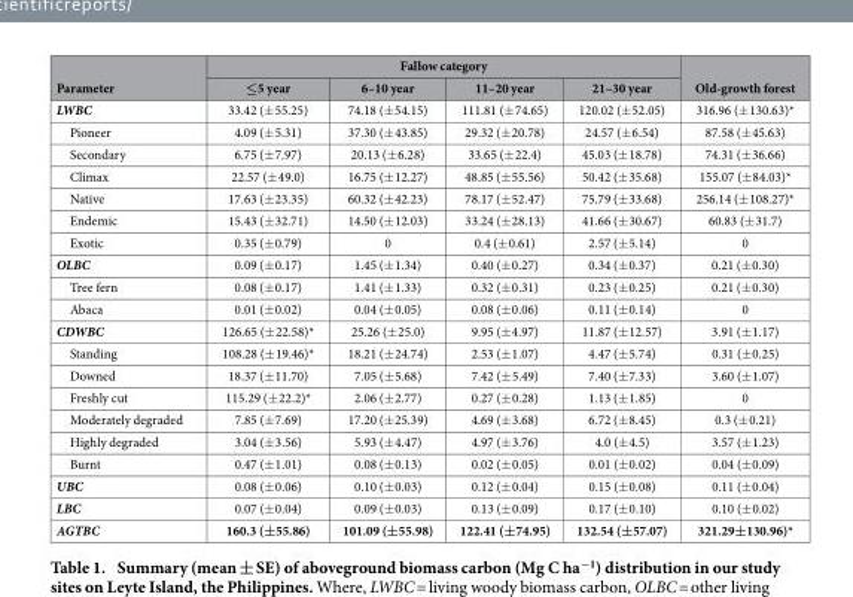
<table><thead><tr><td rowspan="2">Parameter</td><td colspan="4">Fallow category</td><td rowspan="2">Old-growth forest</td></tr><tr><td>≤5 year</td><td>6–10 year</td><td>11–20 year</td><td>21–30 year</td></tr></thead><tbody><tr><td>LWBC</td><td>33.42 (± 55.25)</td><td>74.18 (± 54.15)</td><td>111.81 (± 74.65)</td><td>120.02 (± 52.05)</td><td>316.96 (± 130.63)*</td></tr><tr><td>Pioneer</td><td>4.09 (± 5.31)</td><td>37.30 (± 43.85)</td><td>29.32 (± 20.78)</td><td>24.57 (± 6.54)</td><td>87.58 (± 45.63)</td></tr><tr><td>Secondary</td><td>6.75 (± 7.97)</td><td>20.13 (± 6.28)</td><td>33.65 (± 22.4)</td><td>45.03 (± 18.78)</td><td>74.31 (± 36.66)</td></tr><tr><td>Climax</td><td>22.57 (± 49.0)</td><td>16.75 (± 12.27)</td><td>48.85 (± 55.56)</td><td>50.42 (± 35.68)</td><td>155.07 (± 84.03)*</td></tr><tr><td>Native</td><td>17.63 (± 23.35)</td><td>60.32 (± 42.23)</td><td>78.17 (± 52.47)</td><td>75.79 (± 33.68)</td><td>256.14 (± 108.27)*</td></tr><tr><td>Endemic</td><td>15.43 (± 32.71)</td><td>14.50 (± 12.03)</td><td>33.24 (± 28.13)</td><td>41.66 (± 30.67)</td><td>60.83 (± 31.7)</td></tr><tr><td>Exotic</td><td>0.35 (± 0.79)</td><td>0</td><td>0.4 (± 0.61)</td><td>2.57 (± 5.14)</td><td>0</td></tr><tr><td>OLBC</td><td>0.09 (± 0.17)</td><td>1.45 (± 1.34)</td><td>0.40 (± 0.27)</td><td>0.34 (± 0.37)</td><td>0.21 (± 0.30)</td></tr><tr><td>Tree fern</td><td>0.08 (± 0.17)</td><td>1.41 (± 1.33)</td><td>0.32 (± 0.31)</td><td>0.23 (± 0.25)</td><td>0.21 (± 0.30)</td></tr><tr><td>Abaca</td><td>0.01 (± 0.02)</td><td>0.04 (± 0.05)</td><td>0.08 (± 0.06)</td><td>0.11 (± 0.14)</td><td>0</td></tr><tr><td>CDWBC</td><td>126.65 (± 22.58)*</td><td>25.26 (± 25.0)</td><td>9.95 (± 4.97)</td><td>11.87 (± 12.57)</td><td>3.91 (± 1.17)</td></tr><tr><td>Standing</td><td>108.28 (± 19.46)*</td><td>18.21 (± 24.74)</td><td>2.53 (± 1.07)</td><td>4.47 (± 5.74)</td><td>0.31 (± 0.25)</td></tr><tr><td>Downed</td><td>18.37 (± 11.70)</td><td>7.05 (± 5.68)</td><td>7.42 (± 5.49)</td><td>7.40 (± 7.33)</td><td>3.60 (± 1.07)</td></tr><tr><td>Freshly cut</td><td>115.29 (± 22.2)*</td><td>2.06 (± 2.77)</td><td>0.27 (± 0.28)</td><td>1.13 (± 1.85)</td><td>0</td></tr><tr><td>Moderately degraded</td><td>7.85 (± 7.69)</td><td>17.20 (± 25.39)</td><td>4.69 (± 3.68)</td><td>6.72 (± 8.45)</td><td>0.3 (± 0.21)</td></tr><tr><td>Highly degraded</td><td>3.04 (± 3.56)</td><td>5.93 (± 4.47)</td><td>4.97 (± 3.76)</td><td>4.0 (± 4.5)</td><td>3.57 (± 1.23)</td></tr><tr><td>Burnt</td><td>0.47 (± 1.01)</td><td>0.08 (± 0.13)</td><td>0.02 (± 0.05)</td><td>0.01 (± 0.02)</td><td>0.04 (± 0.09)</td></tr><tr><td>UBC</td><td>0.08 (± 0.06)</td><td>0.10 (± 0.03)</td><td>0.12 (± 0.04)</td><td>0.15 (± 0.08)</td><td>0.11 (± 0.04)</td></tr><tr><td>LBC</td><td>0.07 (± 0.04)</td><td>0.09 (± 0.03)</td><td>0.13 (± 0.09)</td><td>0.17 (± 0.10)</td><td>0.10 (± 0.02)</td></tr><tr><td>AGTBC</td><td>160.3 (±55.86)</td><td>101.09 (±55.98)</td><td>122.41 (±74.95)</td><td>132.54 (±57.07)</td><td>321.29±130.96)*</td></tr></tbody></table>